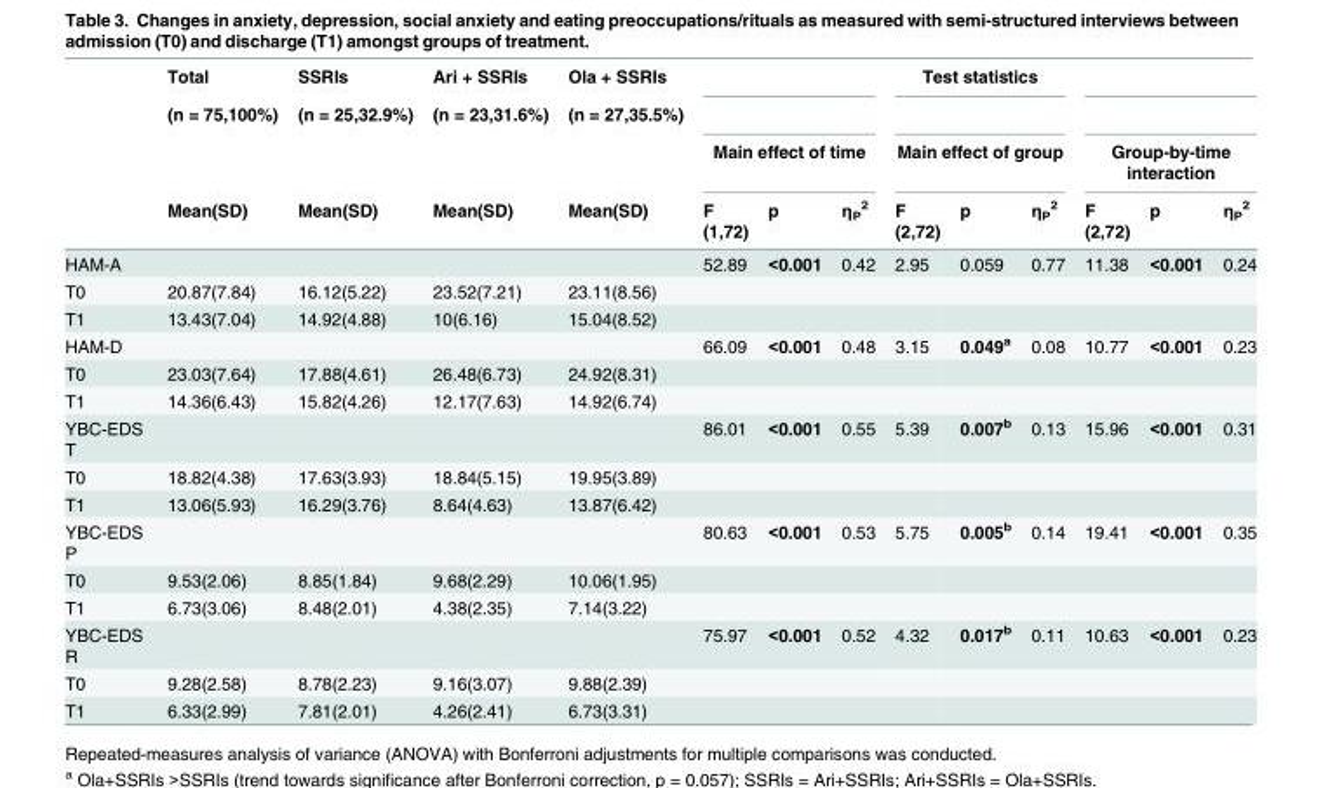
<table><thead><tr><td rowspan="4"></td><td rowspan="4">Total (n = 75,100%) Mean(SD)</td><td rowspan="4">SSRIs (n = 25,32.9%) Mean(SD)</td><td rowspan="4">Ari + SSRIs (n = 23,31.6%) Mean(SD)</td><td rowspan="4">Ola + SSRIs (n = 27,35.5%) Mean(SD)</td><td rowspan="2"></td><td rowspan="2"></td><td rowspan="2"></td><td colspan="3">Test statistics</td><td rowspan="2"></td><td rowspan="2"></td><td rowspan="2"></td></tr><tr><td></td><td></td><td></td></tr><tr><td colspan="3">Main effect of time</td><td colspan="3">Main effect of group</td><td colspan="3">Group-by-time interaction</td></tr><tr><td>F (1,72)</td><td>p</td><td>η<sub>P</sub> <sup>2</sup></td><td>F (2,72)</td><td>p</td><td>η<sub>P</sub> <sup>2</sup></td><td>F (2,72)</td><td>p</td><td>η<sub>P</sub> <sup>2</sup></td></tr></thead><tbody><tr><td>HAM-A</td><td></td><td></td><td></td><td></td><td>52.89</td><td>&lt;0.001</td><td>0.42</td><td>2.95</td><td>0.059</td><td>0.77</td><td>11.38</td><td>&lt;0.001</td><td>0.24</td></tr><tr><td>T0</td><td>20.87(7.84)</td><td>16.12(5.22)</td><td>23.52(7.21)</td><td>23.11(8.56)</td><td></td><td></td><td></td><td></td><td></td><td></td><td></td><td></td><td></td></tr><tr><td>T1</td><td>13.43(7.04)</td><td>14.92(4.88)</td><td>10(6.16)</td><td>15.04(8.52)</td><td></td><td></td><td></td><td></td><td></td><td></td><td></td><td></td><td></td></tr><tr><td>HAM-D</td><td></td><td></td><td></td><td></td><td>66.09</td><td>&lt;0.001</td><td>0.48</td><td>3.15</td><td>0.049<sup>a</sup></td><td>0.08</td><td>10.77</td><td>&lt;0.001</td><td>0.23</td></tr><tr><td>T0</td><td>23.03(7.64)</td><td>17.88(4.61)</td><td>26.48(6.73)</td><td>24.92(8.31)</td><td></td><td></td><td></td><td></td><td></td><td></td><td></td><td></td><td></td></tr><tr><td>T1</td><td>14.36(6.43)</td><td>15.82(4.26)</td><td>12.17(7.63)</td><td>14.92(6.74)</td><td></td><td></td><td></td><td></td><td></td><td></td><td></td><td></td><td></td></tr><tr><td>YBC-EDS T</td><td></td><td></td><td></td><td></td><td>86.01</td><td>&lt;0.001</td><td>0.55</td><td>5.39</td><td>0.007<sup>b</sup></td><td>0.13</td><td>15.96</td><td>&lt;0.001</td><td>0.31</td></tr><tr><td>T0</td><td>18.82(4.38)</td><td>17.63(3.93)</td><td>18.84(5.15)</td><td>19.95(3.89)</td><td></td><td></td><td></td><td></td><td></td><td></td><td></td><td></td><td></td></tr><tr><td>T1</td><td>13.06(5.93)</td><td>16.29(3.76)</td><td>8.64(4.63)</td><td>13.87(6.42)</td><td></td><td></td><td></td><td></td><td></td><td></td><td></td><td></td><td></td></tr><tr><td>YBC-EDS P</td><td></td><td></td><td></td><td></td><td>80.63</td><td>&lt;0.001</td><td>0.53</td><td>5.75</td><td>0.005<sup>b</sup></td><td>0.14</td><td>19.41</td><td>&lt;0.001</td><td>0.35</td></tr><tr><td>T0</td><td>9.53(2.06)</td><td>8.85(1.84)</td><td>9.68(2.29)</td><td>10.06(1.95)</td><td></td><td></td><td></td><td></td><td></td><td></td><td></td><td></td><td></td></tr><tr><td>T1</td><td>6.73(3.06)</td><td>8.48(2.01)</td><td>4.38(2.35)</td><td>7.14(3.22)</td><td></td><td></td><td></td><td></td><td></td><td></td><td></td><td></td><td></td></tr><tr><td>YBC-EDS R</td><td></td><td></td><td></td><td></td><td>75.97</td><td>&lt;0.001</td><td>0.52</td><td>4.32</td><td>0.017<sup>b</sup></td><td>0.11</td><td>10.63</td><td>&lt;0.001</td><td>0.23</td></tr><tr><td>T0</td><td>9.28(2.58)</td><td>8.78(2.23)</td><td>9.16(3.07)</td><td>9.88(2.39)</td><td></td><td></td><td></td><td></td><td></td><td></td><td></td><td></td><td></td></tr><tr><td>T1</td><td>6.33(2.99)</td><td>7.81(2.01)</td><td>4.26(2.41)</td><td>6.73(3.31)</td><td></td><td></td><td></td><td></td><td></td><td></td><td></td><td></td><td></td></tr></tbody></table>